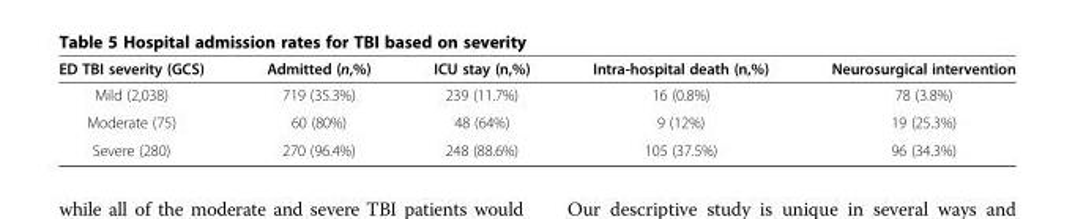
<table><thead><tr><td>ED TBI severity (GCS)</td><td>Admitted (n,%)</td><td>ICU stay (n,%)</td><td>Intra-hospital death (n,%)</td><td>Neurosurgical intervention</td></tr></thead><tbody><tr><td>Mild (2,038)</td><td>719 (35.3%)</td><td>239 (11.7%)</td><td>16 (0.8%)</td><td>78 (3.8%)</td></tr><tr><td>Moderate (75)</td><td>60 (80%)</td><td>48 (64%)</td><td>9 (12%)</td><td>19 (25.3%)</td></tr><tr><td>Severe (280)</td><td>270 (96.4%)</td><td>248 (88.6%)</td><td>105 (37.5%)</td><td>96 (34.3%)</td></tr></tbody></table>